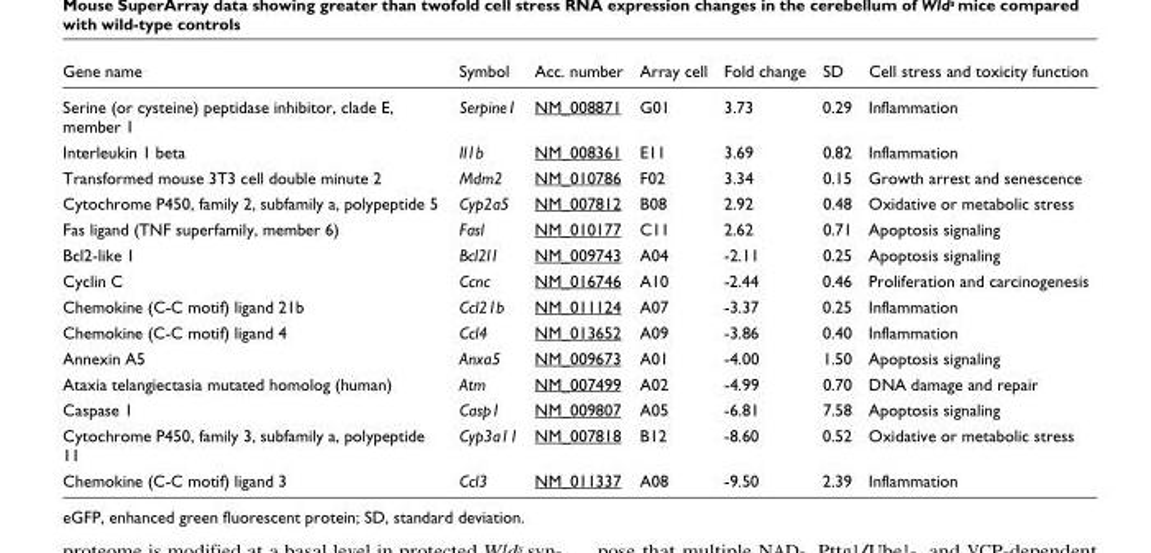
<table><thead><tr><td>Gene name</td><td>Symbol</td><td>Acc. number</td><td>Array cell</td><td>Fold change</td><td>SD</td><td>Cell stress and toxicity function</td></tr></thead><tbody><tr><td>Serine (or cysteine) peptidase inhibitor, clade E, member 1</td><td>Serpine1</td><td>NM_008871</td><td>G01</td><td>3.73</td><td>0.29</td><td>Inflammation</td></tr><tr><td>Interleukin 1 beta</td><td>Il1b</td><td>NM_008361</td><td>E11</td><td>3.69</td><td>0.82</td><td>Inflammation</td></tr><tr><td>Transformed mouse 3T3 cell double minute 2</td><td>Mdm2</td><td>NM_010786</td><td>F02</td><td>3.34</td><td>0.15</td><td>Growth arrest and senescence</td></tr><tr><td>Cytochrome P450, family 2, subfamily a, polypeptide 5</td><td>Cyp2a5</td><td>NM_007812</td><td>B08</td><td>2.92</td><td>0.48</td><td>Oxidative or metabolic stress</td></tr><tr><td>Fas ligand (TNF superfamily, member 6)</td><td>Fasl</td><td>NM_010177</td><td>C11</td><td>2.62</td><td>0.71</td><td>Apoptosis signaling</td></tr><tr><td>Bcl2-like 1</td><td>Bcl2l1</td><td>NM_009743</td><td>A04</td><td>-2.11</td><td>0.25</td><td>Apoptosis signaling</td></tr><tr><td>Cyclin C</td><td>Ccnc</td><td>NM_016746</td><td>A10</td><td>-2.44</td><td>0.46</td><td>Proliferation and carcinogenesis</td></tr><tr><td>Chemokine (C-C motif) ligand 21b</td><td>Ccl21b</td><td>NM_011124</td><td>A07</td><td>-3.37</td><td>0.25</td><td>Inflammation</td></tr><tr><td>Chemokine (C-C motif) ligand 4</td><td>Ccl4</td><td>NM_013652</td><td>A09</td><td>-3.86</td><td>0.40</td><td>Inflammation</td></tr><tr><td>Annexin A5</td><td>Anxa5</td><td>NM_009673</td><td>A01</td><td>-4.00</td><td>1.50</td><td>Apoptosis signaling</td></tr><tr><td>Ataxia telangiectasia mutated homolog (human)</td><td>Atm</td><td>NM_007499</td><td>A02</td><td>-4.99</td><td>0.70</td><td>DNA damage and repair</td></tr><tr><td>Caspase 1</td><td>Casp1</td><td>NM_009807</td><td>A05</td><td>-6.81</td><td>7.58</td><td>Apoptosis signaling</td></tr><tr><td>Cytochrome P450, family 3, subfamily a, polypeptide 11</td><td>Cyp3a11</td><td>NM_007818</td><td>B12</td><td>-8.60</td><td>0.52</td><td>Oxidative or metabolic stress</td></tr><tr><td>Chemokine (C-C motif) ligand 3</td><td>Ccl3</td><td>NM_011337</td><td>A08</td><td>-9.50</td><td>2.39</td><td>Inflammation</td></tr></tbody></table>